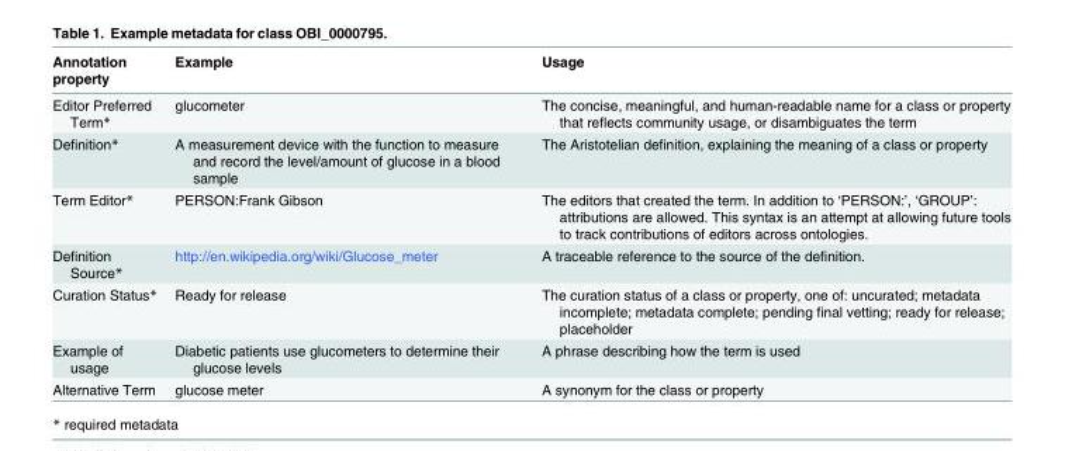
<table><thead><tr><td>Annotation property</td><td>Example</td><td>Usage</td></tr></thead><tbody><tr><td>Editor Preferred Term*</td><td>glucometer</td><td>The concise, meaningful, and human-readable name for a class or property that reflects community usage, or disambiguates the term</td></tr><tr><td>Definition*</td><td>A measurement device with the function to measure and record the level/amount of glucose in a blood sample</td><td>The Aristotelian definition, explaining the meaning of a class or property</td></tr><tr><td>Term Editor*</td><td>PERSON:Frank Gibson</td><td>The editors that created the term. In addition to ‘PERSON:’, ‘GROUP’: attributions are allowed. This syntax is an attempt at allowing future tools to track contributions of editors across ontologies.</td></tr><tr><td>Definition Source*</td><td>http://en.wikipedia.org/wiki/Glucose_meter</td><td>A traceable reference to the source of the definition.</td></tr><tr><td>Curation Status*</td><td>Ready for release</td><td>The curation status of a class or property, one of: uncurated; metadata incomplete; metadata complete; pending final vetting; ready for release; placeholder</td></tr><tr><td>Example of usage</td><td>Diabetic patients use glucometers to determine their glucose levels</td><td>A phrase describing how the term is used</td></tr><tr><td>Alternative Term</td><td>glucose meter</td><td>A synonym for the class or property</td></tr></tbody></table>